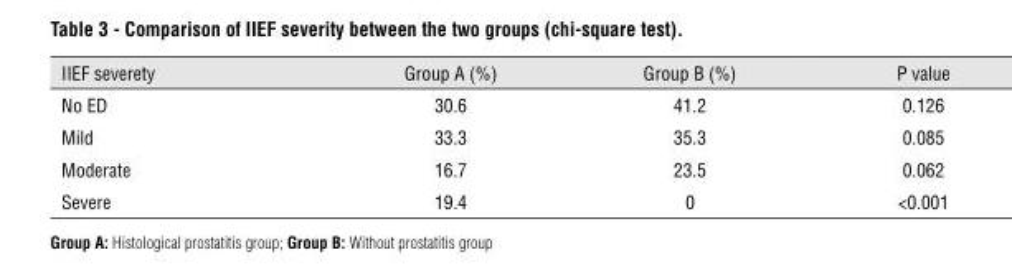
<table><thead><tr><td>IIEF severety</td><td>Group A (%)</td><td>Group B (%)</td><td>P value</td></tr></thead><tbody><tr><td>No ED</td><td>30.6</td><td>41.2</td><td>0.126</td></tr><tr><td>Mild</td><td>33.3</td><td>35.3</td><td>0.085</td></tr><tr><td>Moderate</td><td>16.7</td><td>23.5</td><td>0.062</td></tr><tr><td>Severe</td><td>19.4</td><td>0</td><td>&lt;0.001</td></tr></tbody></table>